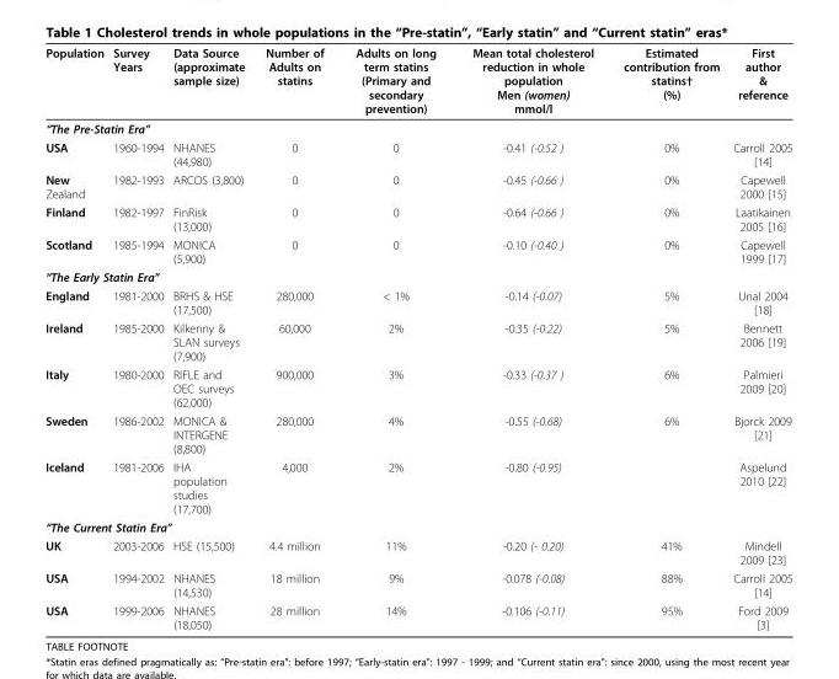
<table><thead><tr><td>Population</td><td>Survey Years</td><td>Data Source (approximate sample size)</td><td>Number of Adults on statins</td><td>Adults on long term statins (Primary and secondary prevention)</td><td>Mean total cholesterol reduction in whole population Men (women) mmol/l</td><td>Estimated contribution from statins† (%)</td><td>First author &amp; reference</td></tr></thead><tbody><tr><td colspan="8">“The Pre-Statin Era”</td></tr><tr><td>USA</td><td>1960-1994</td><td>NHANES (44,980)</td><td>0</td><td>0</td><td>-0.41 (-0.52 )</td><td>0%</td><td>Carroll 2005 [14]</td></tr><tr><td>New Zealand</td><td>1982-1993</td><td>ARCOS (3,800)</td><td>0</td><td>0</td><td>-0.45 (-0.66 )</td><td>0%</td><td>Capewell 2000 [15]</td></tr><tr><td>Finland</td><td>1982-1997</td><td>FinRisk (13,000)</td><td>0</td><td>0</td><td>-0.64 (-0.66 )</td><td>0%</td><td>Laatikainen 2005 [16]</td></tr><tr><td>Scotland</td><td>1985-1994</td><td>MONICA (5,900)</td><td>0</td><td>0</td><td>-0.10 (-0.40 )</td><td>0%</td><td>Capewell 1999 [17]</td></tr><tr><td colspan="8">“The Early Statin Era”</td></tr><tr><td>England</td><td>1981-2000</td><td>BRHS &amp; HSE (17,500)</td><td>280,000</td><td>&lt; 1%</td><td>-0.14 (-0.07)</td><td>5%</td><td>Unal 2004 [18]</td></tr><tr><td>Ireland</td><td>1985-2000</td><td>Kilkenny &amp; SLAN surveys (7,900)</td><td>60,000</td><td>2%</td><td>-0.35 (-0.22)</td><td>5%</td><td>Bennett 2006 [19]</td></tr><tr><td>Italy</td><td>1980-2000</td><td>RIFLE and OEC surveys (62,000)</td><td>900,000</td><td>3%</td><td>-0.33 (-0.37 )</td><td>6%</td><td>Palmieri 2009 [20]</td></tr><tr><td>Sweden</td><td>1986-2002</td><td>MONICA &amp; INTERGENE (8,800)</td><td>280,000</td><td>4%</td><td>-0.55 (-0.68)</td><td>6%</td><td>Bjorck 2009 [21]</td></tr><tr><td>Iceland</td><td>1981-2006</td><td>IHA population studies (17,700)</td><td>4,000</td><td>2%</td><td>-0.80 (-0.95)</td><td></td><td>Aspelund 2010 [22]</td></tr><tr><td colspan="8">“The Current Statin Era”</td></tr><tr><td>UK</td><td>2003-2006</td><td>HSE (15,500)</td><td>4.4 million</td><td>11%</td><td>-0.20 (- 0.20)</td><td>41%</td><td>Mindell 2009 [23]</td></tr><tr><td>USA</td><td>1994-2002</td><td>NHANES (14,530)</td><td>18 million</td><td>9%</td><td>-0.078 (-0.08)</td><td>88%</td><td>Carroll 2005 [14]</td></tr><tr><td>USA</td><td>1999-2006</td><td>NHANES (18,050)</td><td>28 million</td><td>14%</td><td>-0.106 (-0.11)</td><td>95%</td><td>Ford 2009 [3]</td></tr></tbody></table>